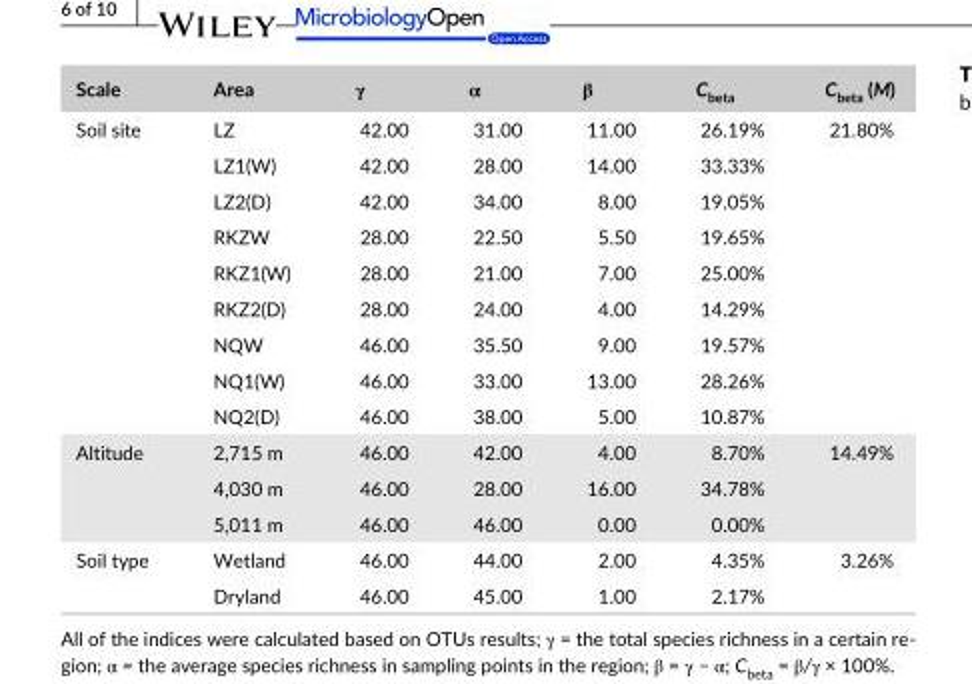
<table><thead><tr><td>Scale</td><td>Area</td><td>γ</td><td>α</td><td>β</td><td>C<sub>beta</sub></td><td>C<sub>beta</sub> (M)</td></tr></thead><tbody><tr><td rowspan="9">Soil site</td><td>LZ</td><td>42.00</td><td>31.00</td><td>11.00</td><td>26.19%</td><td rowspan="9">21.80%</td></tr><tr><td>LZ1(W)</td><td>42.00</td><td>28.00</td><td>14.00</td><td>33.33%</td></tr><tr><td>LZ2(D)</td><td>42.00</td><td>34.00</td><td>8.00</td><td>19.05%</td></tr><tr><td>RKZW</td><td>28.00</td><td>22.50</td><td>5.50</td><td>19.65%</td></tr><tr><td>RKZ1(W)</td><td>28.00</td><td>21.00</td><td>7.00</td><td>25.00%</td></tr><tr><td>RKZ2(D)</td><td>28.00</td><td>24.00</td><td>4.00</td><td>14.29%</td></tr><tr><td>NQW</td><td>46.00</td><td>35.50</td><td>9.00</td><td>19.57%</td></tr><tr><td>NQ1(W)</td><td>46.00</td><td>33.00</td><td>13.00</td><td>28.26%</td></tr><tr><td>NQ2(D)</td><td>46.00</td><td>38.00</td><td>5.00</td><td>10.87%</td></tr><tr><td rowspan="3">Altitude</td><td>2,715 m</td><td>46.00</td><td>42.00</td><td>4.00</td><td>8.70%</td><td rowspan="3">14.49%</td></tr><tr><td>4,030 m</td><td>46.00</td><td>28.00</td><td>16.00</td><td>34.78%</td></tr><tr><td>5,011 m</td><td>46.00</td><td>46.00</td><td>0.00</td><td>0.00%</td></tr><tr><td rowspan="2">Soil type</td><td>Wetland</td><td>46.00</td><td>44.00</td><td>2.00</td><td>4.35%</td><td rowspan="2">3.26%</td></tr><tr><td>Dryland</td><td>46.00</td><td>45.00</td><td>1.00</td><td>2.17%</td></tr></tbody></table>